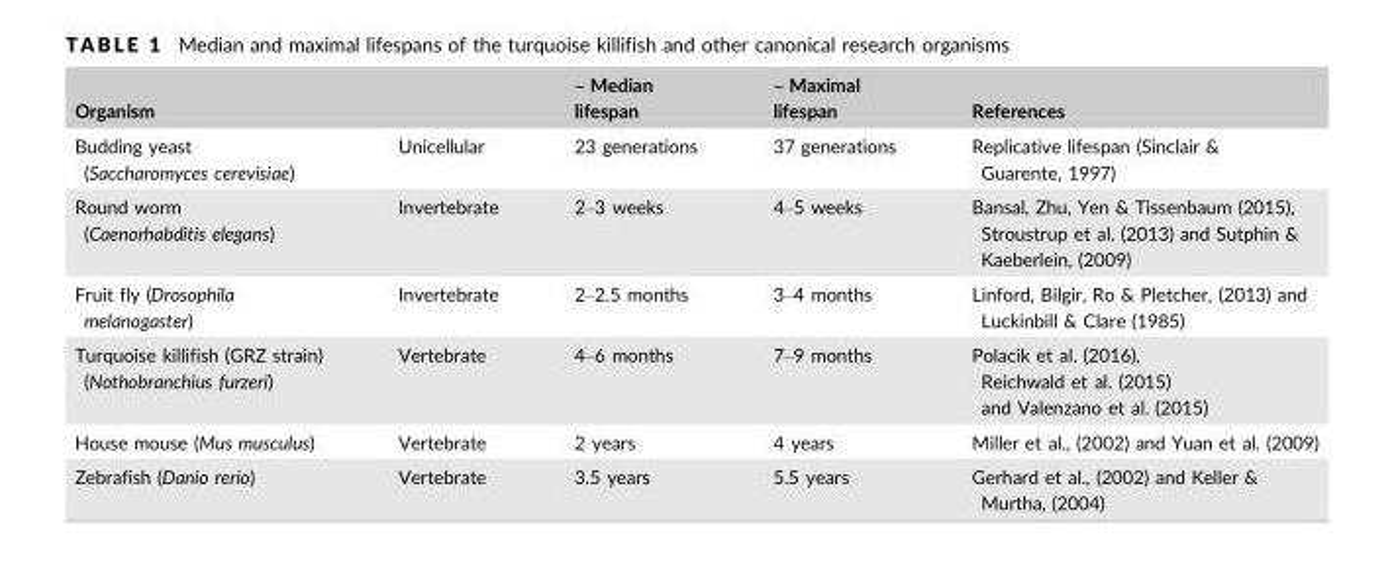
<table><thead><tr><td>Organism</td><td></td><td>~ Median lifespan</td><td>~ Maximal lifespan</td><td>References</td></tr></thead><tbody><tr><td>Budding yeast (Saccharomyces cerevisiae)</td><td>Unicellular</td><td>23 generations</td><td>37 generations</td><td>Replicative lifespan (Sinclair &amp; Guarente, 1997)</td></tr><tr><td>Round worm (Caenorhabditis elegans)</td><td>Invertebrate</td><td>2–3 weeks</td><td>4–5 weeks</td><td>Bansal, Zhu, Yen &amp; Tissenbaum (2015), Stroustrup et al. (2013) and Sutphin &amp; Kaeberlein, (2009)</td></tr><tr><td>Fruit fly (Drosophila melanogaster)</td><td>Invertebrate</td><td>2–2.5 months</td><td>3–4 months</td><td>Linford, Bilgir, Ro &amp; Pletcher, (2013) and Luckinbill &amp; Clare (1985)</td></tr><tr><td>Turquoise killifish (GRZ strain) (Nothobranchius furzeri)</td><td>Vertebrate</td><td>4–6 months</td><td>7–9 months</td><td>Polacik et al. (2016), Reichwald et al. (2015) and Valenzano et al. (2015)</td></tr><tr><td>House mouse (Mus musculus)</td><td>Vertebrate</td><td>2 years</td><td>4 years</td><td>Miller et al., (2002) and Yuan et al. (2009)</td></tr><tr><td>Zebrafish (Danio rerio)</td><td>Vertebrate</td><td>3.5 years</td><td>5.5 years</td><td>Gerhard et al., (2002) and Keller &amp; Murtha, (2004)</td></tr></tbody></table>